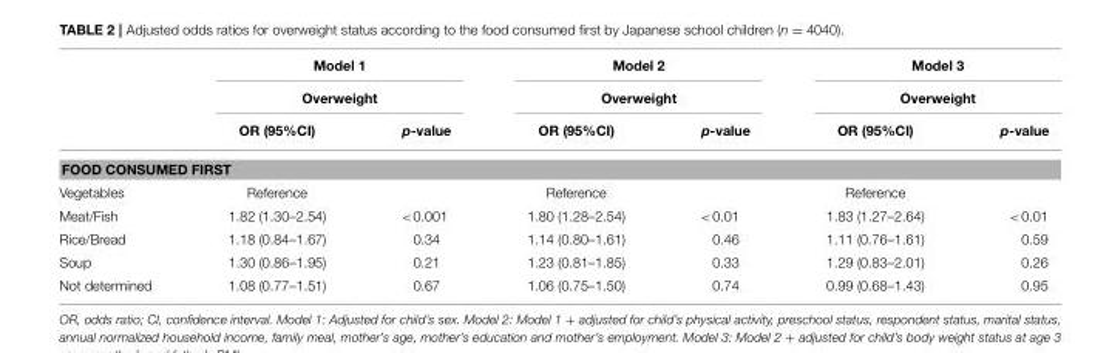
<table><thead><tr><td rowspan="3"></td><td rowspan="2" colspan="2">Model 1 Overweight</td><td rowspan="2" colspan="2">Model 2 Overweight</td><td rowspan="2" colspan="2">Model 3 Overweight</td></tr><tr></tr><tr><td>OR (95%CI)</td><td>p-value</td><td>OR (95%CI)</td><td>p-value</td><td>OR (95%CI)</td><td>p-value</td></tr></thead><tbody><tr><td colspan="7">FOOD CONSUMED FIRST</td></tr><tr><td>Vegetables</td><td>Reference</td><td></td><td>Reference</td><td></td><td>Reference</td><td></td></tr><tr><td>Meat/Fish</td><td>1.82 (1.30–2.54)</td><td>&lt;0.001</td><td>1.80 (1.28–2.54)</td><td>&lt;0.01</td><td>1.83 (1.27–2.64)</td><td>&lt;0.01</td></tr><tr><td>Rice/Bread</td><td>1.18 (0.84–1.67)</td><td>0.34</td><td>1.14 (0.80–1.61)</td><td>0.46</td><td>1.11 (0.76–1.61)</td><td>0.59</td></tr><tr><td>Soup</td><td>1.30 (0.86–1.95)</td><td>0.21</td><td>1.23 (0.81–1.85)</td><td>0.33</td><td>1.29 (0.83–2.01)</td><td>0.26</td></tr><tr><td>Not determined</td><td>1.08 (0.77–1.51)</td><td>0.67</td><td>1.06 (0.75–1.50)</td><td>0.74</td><td>0.99 (0.68–1.43)</td><td>0.95</td></tr></tbody></table>